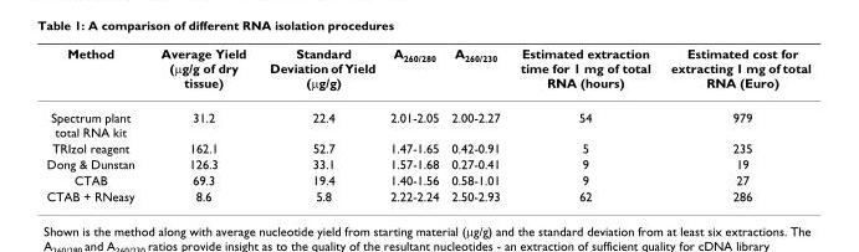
<table><thead><tr><td>Method</td><td>Average Yield (μg/g of dry tissue)</td><td>Standard Deviation of Yield (μg/g)</td><td>A<sub>260/280</sub></td><td>A<sub>260/230</sub></td><td>Estimated extraction time for 1 mg of total RNA (hours)</td><td>Estimated cost for extracting 1 mg of total RNA (Euro)</td></tr></thead><tbody><tr><td>Spectrum plant total RNA kit</td><td>31.2</td><td>22.4</td><td>2.01-2.05</td><td>2.00-2.27</td><td>54</td><td>979</td></tr><tr><td>TRIzol reagent</td><td>162.1</td><td>52.7</td><td>1.47-1.65</td><td>0.42-0.91</td><td>5</td><td>235</td></tr><tr><td>Dong &amp; Dunstan</td><td>126.3</td><td>33.1</td><td>1.57-1.68</td><td>0.27-0.41</td><td>9</td><td>19</td></tr><tr><td>CTAB</td><td>69.3</td><td>19.4</td><td>1.40-1.56</td><td>0.58-1.01</td><td>9</td><td>27</td></tr><tr><td>CTAB + RNeasy</td><td>8.6</td><td>5.8</td><td>2.22-2.24</td><td>2.50-2.93</td><td>62</td><td>286</td></tr></tbody></table>